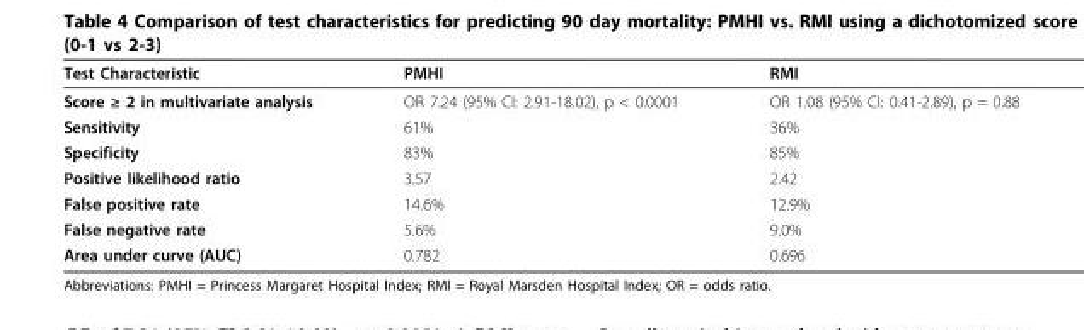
<table><thead><tr><td>Test Characteristic</td><td>PMHI</td><td>RMI</td></tr></thead><tbody><tr><td>Score ≥ 2 in multivariate analysis</td><td>OR 7.24 (95% CI: 2.91-18.02), p &lt; 0.0001</td><td>OR 1.08 (95% CI: 0.41-2.89), p = 0.88</td></tr><tr><td>Sensitivity</td><td>61%</td><td>36%</td></tr><tr><td>Specificity</td><td>83%</td><td>85%</td></tr><tr><td>Positive likelihood ratio</td><td>3.57</td><td>2.42</td></tr><tr><td>False positive rate</td><td>14.6%</td><td>12.9%</td></tr><tr><td>False negative rate</td><td>5.6%</td><td>9.0%</td></tr><tr><td>Area under curve (AUC)</td><td>0.782</td><td>0.696</td></tr></tbody></table>